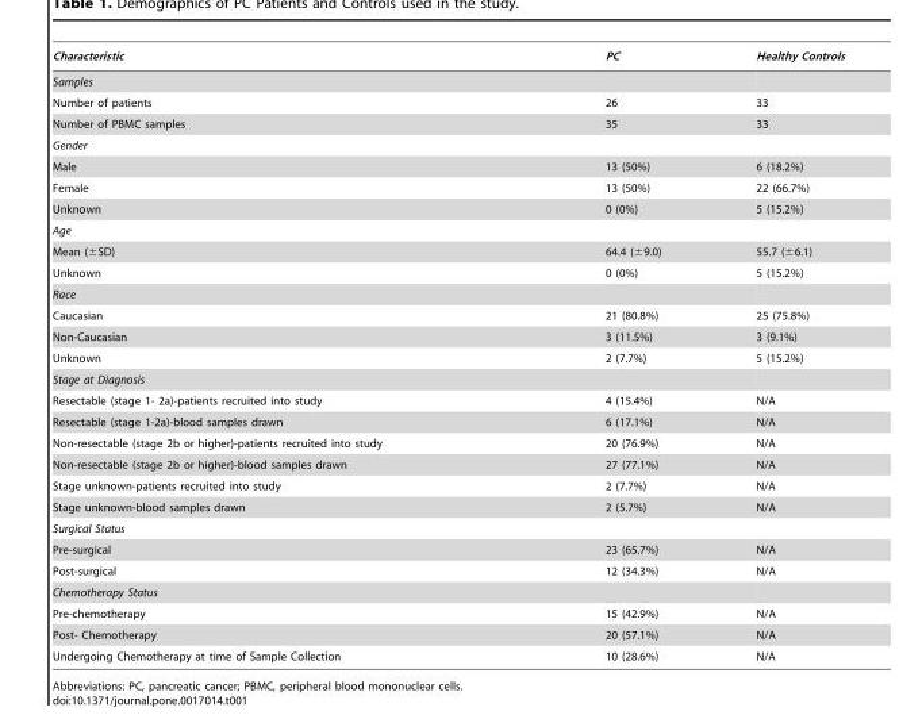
<table><thead><tr><td>Characteristic</td><td>PC</td><td>Healthy Controls</td></tr></thead><tbody><tr><td colspan="3">Samples</td></tr><tr><td>Number of patients</td><td>26</td><td>33</td></tr><tr><td>Number of PBMC samples</td><td>35</td><td>33</td></tr><tr><td colspan="3">Gender</td></tr><tr><td>Male</td><td>13 (50%)</td><td>6 (18.2%)</td></tr><tr><td>Female</td><td>13 (50%)</td><td>22 (66.7%)</td></tr><tr><td>Unknown</td><td>0 (0%)</td><td>5 (15.2%)</td></tr><tr><td colspan="3">Age</td></tr><tr><td>Mean (±SD)</td><td>64.4 (±9.0)</td><td>55.7 (±6.1)</td></tr><tr><td>Unknown</td><td>0 (0%)</td><td>5 (15.2%)</td></tr><tr><td colspan="3">Race</td></tr><tr><td>Caucasian</td><td>21 (80.8%)</td><td>25 (75.8%)</td></tr><tr><td>Non-Caucasian</td><td>3 (11.5%)</td><td>3 (9.1%)</td></tr><tr><td>Unknown</td><td>2 (7.7%)</td><td>5 (15.2%)</td></tr><tr><td colspan="3">Stage at Diagnosis</td></tr><tr><td>Resectable (stage 1- 2a)-patients recruited into study</td><td>4 (15.4%)</td><td>N/A</td></tr><tr><td>Resectable (stage 1-2a)-blood samples drawn</td><td>6 (17.1%)</td><td>N/A</td></tr><tr><td>Non-resectable (stage 2b or higher)-patients recruited into study</td><td>20 (76.9%)</td><td>N/A</td></tr><tr><td>Non-resectable (stage 2b or higher)-blood samples drawn</td><td>27 (77.1%)</td><td>N/A</td></tr><tr><td>Stage unknown-patients recruited into study</td><td>2 (7.7%)</td><td>N/A</td></tr><tr><td>Stage unknown-blood samples drawn</td><td>2 (5.7%)</td><td>N/A</td></tr><tr><td colspan="3">Surgical Status</td></tr><tr><td>Pre-surgical</td><td>23 (65.7%)</td><td>N/A</td></tr><tr><td>Post-surgical</td><td>12 (34.3%)</td><td>N/A</td></tr><tr><td colspan="3">Chemotherapy Status</td></tr><tr><td>Pre-chemotherapy</td><td>15 (42.9%)</td><td>N/A</td></tr><tr><td>Post- Chemotherapy</td><td>20 (57.1%)</td><td>N/A</td></tr><tr><td>Undergoing Chemotherapy at time of Sample Collection</td><td>10 (28.6%)</td><td>N/A</td></tr></tbody></table>